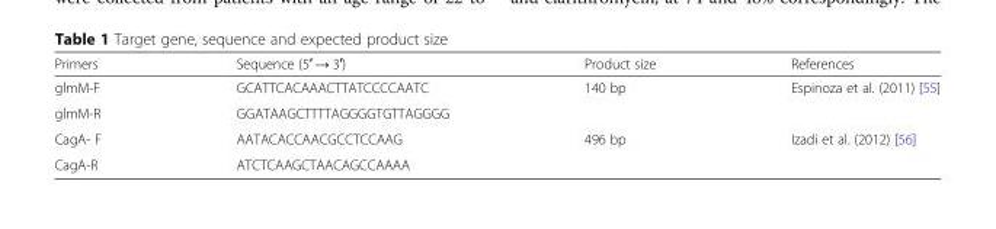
<table><thead><tr><td>Primers</td><td>Sequence (5′ → 3′)</td><td>Product size</td><td>References</td></tr></thead><tbody><tr><td>glmM-F</td><td>GCATTCACAAACTTATCCCCAATC</td><td rowspan="2">140 bp</td><td rowspan="2">Espinoza et al. (2011) [55]</td></tr><tr><td>glmM-R</td><td>GGATAAGCTTTTAGGGGTGTTAGGGG</td></tr><tr><td>CagA- F</td><td>AATACACCAACGCCTCCAAG</td><td rowspan="2">496 bp</td><td rowspan="2">Izadi et al. (2012) [56]</td></tr><tr><td>CagA-R</td><td>ATCTCAAGCTAACAGCCAAAA</td></tr></tbody></table>